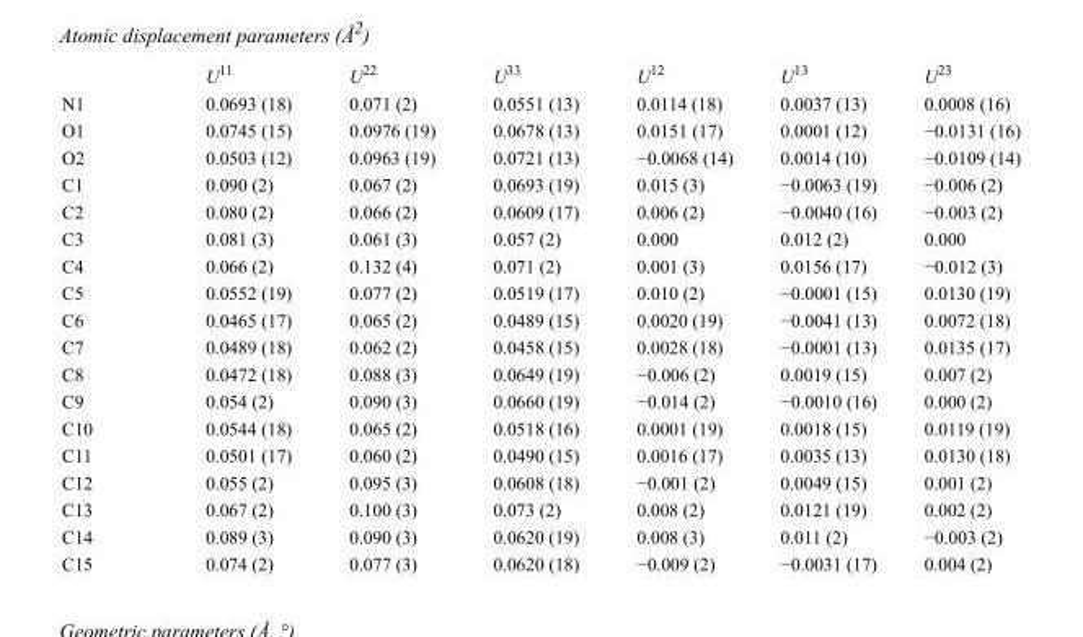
<table><thead><tr><td></td><td>U<sup>11</sup></td><td>U<sup>22</sup></td><td>U<sup>33</sup></td><td>U<sup>12</sup></td><td>U<sup>13</sup></td><td>U<sup>23</sup></td></tr></thead><tbody><tr><td>N1</td><td>0.0693 (18)</td><td>0.071 (2)</td><td>0.0551 (13)</td><td>0.0114 (18)</td><td>0.0037 (13)</td><td>0.0008 (16)</td></tr><tr><td>O1</td><td>0.0745 (15)</td><td>0.0976 (19)</td><td>0.0678 (13)</td><td>0.0151 (17)</td><td>0.0001 (12)</td><td>−0.0131 (16)</td></tr><tr><td>O2</td><td>0.0503 (12)</td><td>0.0963 (19)</td><td>0.0721 (13)</td><td>−0.0068 (14)</td><td>0.0014 (10)</td><td>−0.0109 (14)</td></tr><tr><td>C1</td><td>0.090 (2)</td><td>0.067 (2)</td><td>0.0693 (19)</td><td>0.015 (3)</td><td>−0.0063 (19)</td><td>−0.006 (2)</td></tr><tr><td>C2</td><td>0.080 (2)</td><td>0.066 (2)</td><td>0.0609 (17)</td><td>0.006 (2)</td><td>−0.0040 (16)</td><td>−0.003 (2)</td></tr><tr><td>C3</td><td>0.081 (3)</td><td>0.061 (3)</td><td>0.057 (2)</td><td>0.000</td><td>0.012 (2)</td><td>0.000</td></tr><tr><td>C4</td><td>0.066 (2)</td><td>0.132 (4)</td><td>0.071 (2)</td><td>0.001 (3)</td><td>0.0156 (17)</td><td>−0.012 (3)</td></tr><tr><td>C5</td><td>0.0552 (19)</td><td>0.077 (2)</td><td>0.0519 (17)</td><td>0.010 (2)</td><td>−0.0001 (15)</td><td>0.0130 (19)</td></tr><tr><td>C6</td><td>0.0465 (17)</td><td>0.065 (2)</td><td>0.0489 (15)</td><td>0.0020 (19)</td><td>−0.0041 (13)</td><td>0.0072 (18)</td></tr><tr><td>C7</td><td>0.0489 (18)</td><td>0.062 (2)</td><td>0.0458 (15)</td><td>0.0028 (18)</td><td>−0.0001 (13)</td><td>0.0135 (17)</td></tr><tr><td>C8</td><td>0.0472 (18)</td><td>0.088 (3)</td><td>0.0649 (19)</td><td>−0.006 (2)</td><td>0.0019 (15)</td><td>0.007 (2)</td></tr><tr><td>C9</td><td>0.054 (2)</td><td>0.090 (3)</td><td>0.0660 (19)</td><td>−0.014 (2)</td><td>−0.0010 (16)</td><td>0.000 (2)</td></tr><tr><td>C10</td><td>0.0544 (18)</td><td>0.065 (2)</td><td>0.0518 (16)</td><td>0.0001 (19)</td><td>0.0018 (15)</td><td>0.0119 (19)</td></tr><tr><td>C11</td><td>0.0501 (17)</td><td>0.060 (2)</td><td>0.0490 (15)</td><td>0.0016 (17)</td><td>0.0035 (13)</td><td>0.0130 (18)</td></tr><tr><td>C12</td><td>0.055 (2)</td><td>0.095 (3)</td><td>0.0608 (18)</td><td>−0.001 (2)</td><td>0.0049 (15)</td><td>0.001 (2)</td></tr><tr><td>C13</td><td>0.067 (2)</td><td>0.100 (3)</td><td>0.073 (2)</td><td>0.008 (2)</td><td>0.0121 (19)</td><td>0.002 (2)</td></tr><tr><td>C14</td><td>0.089 (3)</td><td>0.090 (3)</td><td>0.0620 (19)</td><td>0.008 (3)</td><td>0.011 (2)</td><td>−0.003 (2)</td></tr><tr><td>C15</td><td>0.074 (2)</td><td>0.077 (3)</td><td>0.0620 (18)</td><td>−0.009 (2)</td><td>−0.0031 (17)</td><td>0.004 (2)</td></tr></tbody></table>